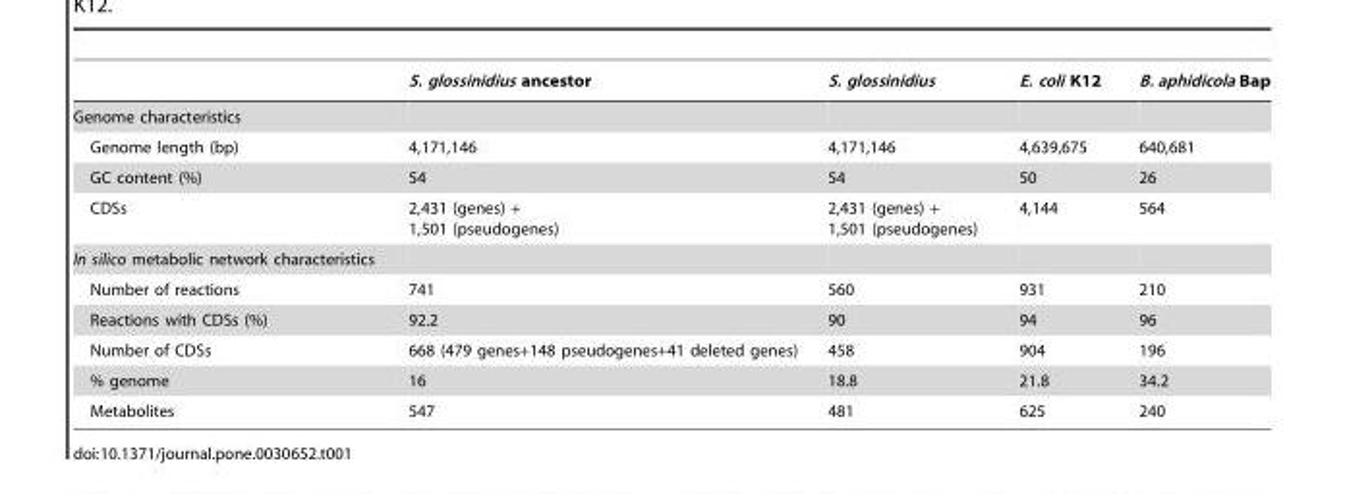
<table><thead><tr><td></td><td>S. glossinidius ancestor</td><td>S. glossinidius</td><td>E. coli K12</td><td>B. aphidicola Bap</td></tr></thead><tbody><tr><td colspan="5">Genome characteristics</td></tr><tr><td>Genome length (bp)</td><td>4,171,146</td><td>4,171,146</td><td>4,639,675</td><td>640,681</td></tr><tr><td>GC content (%)</td><td>54</td><td>54</td><td>50</td><td>26</td></tr><tr><td>CDSs</td><td>2,431 (genes) + 1,501 (pseudogenes)</td><td>2,431 (genes) + 1,501 (pseudogenes)</td><td>4,144</td><td>564</td></tr><tr><td colspan="5">In silico metabolic network characteristics</td></tr><tr><td>Number of reactions</td><td>741</td><td>560</td><td>931</td><td>210</td></tr><tr><td>Reactions with CDSs (%)</td><td>92.2</td><td>90</td><td>94</td><td>96</td></tr><tr><td>Number of CDSs</td><td>668 (479 genes+148 pseudogenes+41 deleted genes)</td><td>458</td><td>904</td><td>196</td></tr><tr><td>% genome</td><td>16</td><td>18.8</td><td>21.8</td><td>34.2</td></tr><tr><td>Metabolites</td><td>547</td><td>481</td><td>625</td><td>240</td></tr></tbody></table>